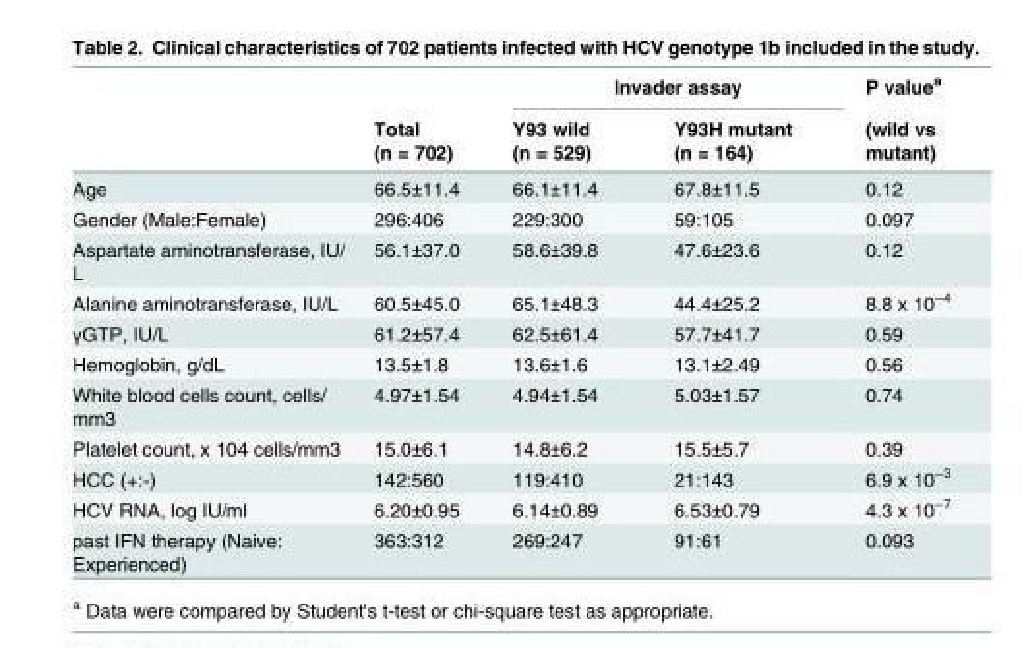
<table><thead><tr><td rowspan="2"></td><td rowspan="2">Total (n = 702)</td><td colspan="2">Invader assay</td><td rowspan="2">P value<sup>a</sup> (wild vs mutant)</td></tr><tr><td>Y93 wild (n = 529)</td><td>Y93H mutant (n = 164)</td></tr></thead><tbody><tr><td>Age</td><td>66.5±11.4</td><td>66.1±11.4</td><td>67.8±11.5</td><td>0.12</td></tr><tr><td>Gender (Male:Female)</td><td>296:406</td><td>229:300</td><td>59:105</td><td>0.097</td></tr><tr><td>Aspartate aminotransferase, IU/ L</td><td>56.1±37.0</td><td>58.6±39.8</td><td>47.6±23.6</td><td>0.12</td></tr><tr><td>Alanine aminotransferase, IU/L</td><td>60.5±45.0</td><td>65.1±48.3</td><td>44.4±25.2</td><td>8.8 x 10<sup>−4</sup></td></tr><tr><td>γGTP, IU/L</td><td>61.2±57.4</td><td>62.5±61.4</td><td>57.7±41.7</td><td>0.59</td></tr><tr><td>Hemoglobin, g/dL</td><td>13.5±1.8</td><td>13.6±1.6</td><td>13.1±2.49</td><td>0.56</td></tr><tr><td>White blood cells count, cells/ mm3</td><td>4.97±1.54</td><td>4.94±1.54</td><td>5.03±1.57</td><td>0.74</td></tr><tr><td>Platelet count, x 104 cells/mm3</td><td>15.0±6.1</td><td>14.8±6.2</td><td>15.5±5.7</td><td>0.39</td></tr><tr><td>HCC (+:-)</td><td>142:560</td><td>119:410</td><td>21:143</td><td>6.9 x 10<sup>−3</sup></td></tr><tr><td>HCV RNA, log IU/ml</td><td>6.20±0.95</td><td>6.14±0.89</td><td>6.53±0.79</td><td>4.3 x 10<sup>−7</sup></td></tr><tr><td>past IFN therapy (Naive: Experienced)</td><td>363:312</td><td>269:247</td><td>91:61</td><td>0.093</td></tr></tbody></table>